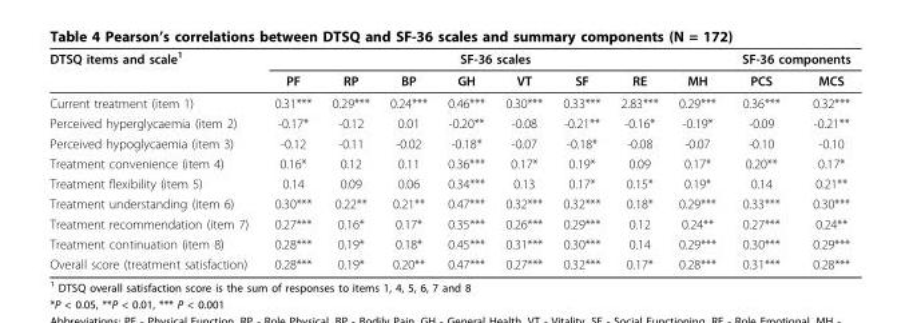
<table><thead><tr><td rowspan="2">DTSQ items and scale<sup>1</sup></td><td colspan="8">SF-36 scales</td><td colspan="2">SF-36 components</td></tr><tr><td>PF</td><td>RP</td><td>BP</td><td>GH</td><td>VT</td><td>SF</td><td>RE</td><td>MH</td><td>PCS</td><td>MCS</td></tr></thead><tbody><tr><td>Current treatment (item 1)</td><td>0.31***</td><td>0.29***</td><td>0.24***</td><td>0.46***</td><td>0.30***</td><td>0.33***</td><td>2.83***</td><td>0.29***</td><td>0.36***</td><td>0.32***</td></tr><tr><td>Perceived hyperglycaemia (item 2)</td><td>-0.17*</td><td>-0.12</td><td>0.01</td><td>-0.20**</td><td>-0.08</td><td>-0.21**</td><td>-0.16*</td><td>-0.19*</td><td>-0.09</td><td>-0.21**</td></tr><tr><td>Perceived hypoglycaemia (item 3)</td><td>-0.12</td><td>-0.11</td><td>-0.02</td><td>-0.18*</td><td>-0.07</td><td>-0.18*</td><td>-0.08</td><td>-0.07</td><td>-0.10</td><td>-0.10</td></tr><tr><td>Treatment convenience (item 4)</td><td>0.16*</td><td>0.12</td><td>0.11</td><td>0.36***</td><td>0.17*</td><td>0.19*</td><td>0.09</td><td>0.17*</td><td>0.20**</td><td>0.17*</td></tr><tr><td>Treatment flexibility (item 5)</td><td>0.14</td><td>0.09</td><td>0.06</td><td>0.34***</td><td>0.13</td><td>0.17*</td><td>0.15*</td><td>0.19*</td><td>0.14</td><td>0.21**</td></tr><tr><td>Treatment understanding (item 6)</td><td>0.30***</td><td>0.22**</td><td>0.21**</td><td>0.47***</td><td>0.32***</td><td>0.32***</td><td>0.18*</td><td>0.29***</td><td>0.33***</td><td>0.30***</td></tr><tr><td>Treatment recommendation (item 7)</td><td>0.27***</td><td>0.16*</td><td>0.17*</td><td>0.35***</td><td>0.26***</td><td>0.29***</td><td>0.12</td><td>0.24**</td><td>0.27***</td><td>0.24**</td></tr><tr><td>Treatment continuation (item 8)</td><td>0.28***</td><td>0.19*</td><td>0.18*</td><td>0.45***</td><td>0.31***</td><td>0.30***</td><td>0.14</td><td>0.29***</td><td>0.30***</td><td>0.29***</td></tr><tr><td>Overall score (treatment satisfaction)</td><td>0.28***</td><td>0.19*</td><td>0.20**</td><td>0.47***</td><td>0.27***</td><td>0.32***</td><td>0.17*</td><td>0.28***</td><td>0.31***</td><td>0.28***</td></tr></tbody></table>